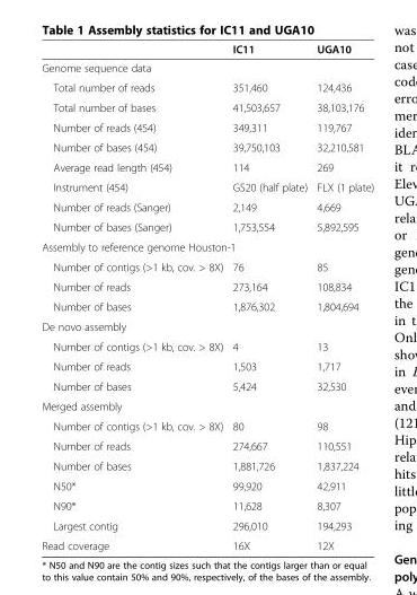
<table><thead><tr><td></td><td>IC11</td><td>UGA10</td></tr></thead><tbody><tr><td colspan="3">Genome sequence data</td></tr><tr><td>Total number of reads</td><td>351,460</td><td>124,436</td></tr><tr><td>Total number of bases</td><td>41,503,657</td><td>38,103,176</td></tr><tr><td>Number of reads (454)</td><td>349,311</td><td>119,767</td></tr><tr><td>Number of bases (454)</td><td>39,750,103</td><td>32,210,581</td></tr><tr><td>Average read length (454)</td><td>114</td><td>269</td></tr><tr><td>Instrument (454)</td><td>GS20 (half plate)</td><td>FLX (1 plate)</td></tr><tr><td>Number of reads (Sanger)</td><td>2,149</td><td>4,669</td></tr><tr><td>Number of bases (Sanger)</td><td>1,753,554</td><td>5,892,595</td></tr><tr><td colspan="3">Assembly to reference genome Houston-1</td></tr><tr><td>Number of contigs (&gt;1 kb, cov. &gt; 8X)</td><td>76</td><td>85</td></tr><tr><td>Number of reads</td><td>273,164</td><td>108,834</td></tr><tr><td>Number of bases</td><td>1,876,302</td><td>1,804,694</td></tr><tr><td colspan="3">De novo assembly</td></tr><tr><td>Number of contigs (&gt;1 kb, cov. &gt; 8X)</td><td>4</td><td>13</td></tr><tr><td>Number of reads</td><td>1,503</td><td>1,717</td></tr><tr><td>Number of bases</td><td>5,424</td><td>32,530</td></tr><tr><td colspan="3">Merged assembly</td></tr><tr><td>Number of contigs (&gt;1 kb, cov. &gt; 8X)</td><td>80</td><td>98</td></tr><tr><td>Number of reads</td><td>274,667</td><td>110,551</td></tr><tr><td>Number of bases</td><td>1,881,726</td><td>1,837,224</td></tr><tr><td>N50*</td><td>99,920</td><td>42,911</td></tr><tr><td>N90*</td><td>11,628</td><td>8,307</td></tr><tr><td>Largest contig</td><td>296,010</td><td>194,293</td></tr><tr><td>Read coverage</td><td>16X</td><td>12X</td></tr></tbody></table>